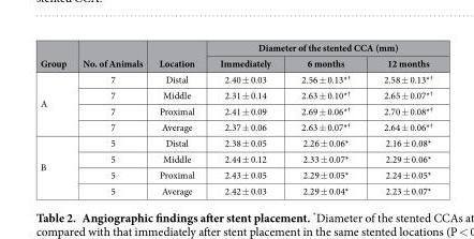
<table><thead><tr><td rowspan="2">Group</td><td rowspan="2">No. of Animals</td><td rowspan="2">Location</td><td colspan="3">Diameter of the stented CCA (mm)</td></tr><tr><td>Immediately</td><td>6 months</td><td>12 months</td></tr></thead><tbody><tr><td rowspan="4">A</td><td>7</td><td>Distal</td><td>2.40 ± 0.03</td><td>2.56 ± 0.13*<sup>†</sup></td><td>2.58 ± 0.13*<sup>†</sup></td></tr><tr><td>7</td><td>Middle</td><td>2.31 ± 0.14</td><td>2.63 ± 0.10*<sup>†</sup></td><td>2.65 ± 0.07*<sup>†</sup></td></tr><tr><td>7</td><td>Proximal</td><td>2.41 ± 0.09</td><td>2.69 ± 0.06*<sup>†</sup></td><td>2.70 ± 0.08*<sup>†</sup></td></tr><tr><td>7</td><td>Average</td><td>2.37 ± 0.06</td><td>2.63 ± 0.07*<sup>†</sup></td><td>2.64 ± 0.06*<sup>†</sup></td></tr><tr><td rowspan="4">B</td><td>5</td><td>Distal</td><td>2.38 ± 0.05</td><td>2.26 ± 0.06*</td><td>2.16 ± 0.08*</td></tr><tr><td>5</td><td>Middle</td><td>2.44 ± 0.12</td><td>2.33 ± 0.07*</td><td>2.29 ± 0.06*</td></tr><tr><td>5</td><td>Proximal</td><td>2.43 ± 0.05</td><td>2.29 ± 0.05*</td><td>2.24 ± 0.05*</td></tr><tr><td>5</td><td>Average</td><td>2.42 ± 0.03</td><td>2.29 ± 0.04*</td><td>2.23 ± 0.07*</td></tr></tbody></table>